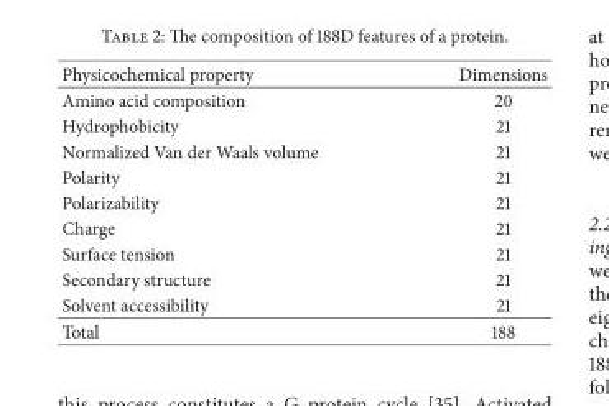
<table><thead><tr><td>Physicochemical property</td><td>Dimensions</td></tr></thead><tbody><tr><td>Amino acid composition</td><td>20</td></tr><tr><td>Hydrophobicity</td><td>21</td></tr><tr><td>Normalized Van der Waals volume</td><td>21</td></tr><tr><td>Polarity</td><td>21</td></tr><tr><td>Polarizability</td><td>21</td></tr><tr><td>Charge</td><td>21</td></tr><tr><td>Surface tension</td><td>21</td></tr><tr><td>Secondary structure</td><td>21</td></tr><tr><td>Solvent accessibility</td><td>21</td></tr><tr><td>Total</td><td>188</td></tr></tbody></table>